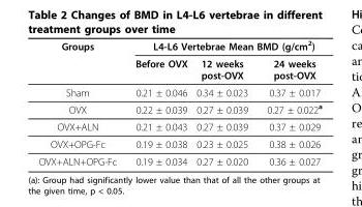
<table><thead><tr><td rowspan="2">Groups</td><td colspan="3">L4-L6 Vertebrae Mean BMD (g/cm<sup>2</sup>)</td></tr><tr><td>Before OVX</td><td>12 weeks post-OVX</td><td>24 weeks post-OVX</td></tr></thead><tbody><tr><td>Sham</td><td>0.21 ± 0.046</td><td>0.34 ± 0.023</td><td>0.37 ± 0.017</td></tr><tr><td>OVX</td><td>0.22 ± 0.039</td><td>0.27 ± 0.039</td><td>0.27 ± 0.022<sup>a</sup></td></tr><tr><td>OVX+ALN</td><td>0.21 ± 0.043</td><td>0.27 ± 0.039</td><td>0.37 ± 0.029</td></tr><tr><td>OVX+OPG-Fc</td><td>0.19 ± 0.038</td><td>0.23 ± 0.025</td><td>0.38 ± 0.026</td></tr><tr><td>OVX+ALN+OPG-Fc</td><td>0.19 ± 0.034</td><td>0.27 ± 0.020</td><td>0.36 ± 0.027</td></tr></tbody></table>